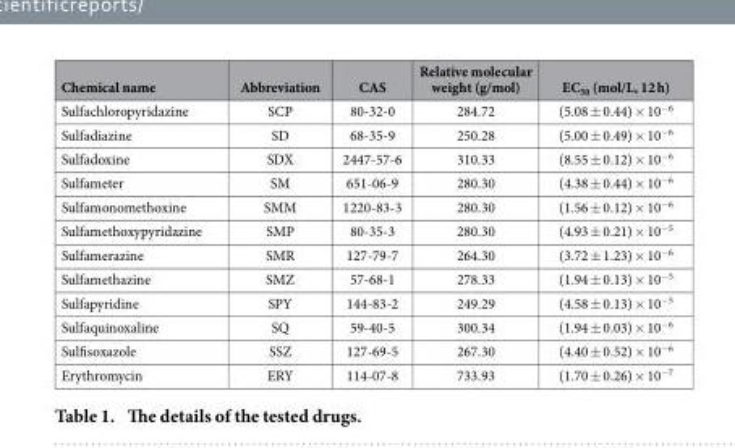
<table><thead><tr><td>Chemical name</td><td>Abbreviation</td><td>CAS</td><td>Relative molecular weight (g/mol)</td><td>EC<sub>50</sub> (mol/L, 12 h)</td></tr></thead><tbody><tr><td>Sulfachloropyridazine</td><td>SCP</td><td>80-32-0</td><td>284.72</td><td>(5.08 ± 0.44) × 10<sup>−6</sup></td></tr><tr><td>Sulfadiazine</td><td>SD</td><td>68-35-9</td><td>250.28</td><td>(5.00 ± 0.49) × 10<sup>−6</sup></td></tr><tr><td>Sulfadoxine</td><td>SDX</td><td>2447-57-6</td><td>310.33</td><td>(8.55 ± 0.12) × 10<sup>−6</sup></td></tr><tr><td>Sulfameter</td><td>SM</td><td>651-06-9</td><td>280.30</td><td>(4.38 ± 0.44) × 10<sup>−6</sup></td></tr><tr><td>Sulfamonomethoxine</td><td>SMM</td><td>1220-83-3</td><td>280.30</td><td>(1.56 ± 0.12) × 10<sup>−6</sup></td></tr><tr><td>Sulfamethoxypyridazine</td><td>SMP</td><td>80-35-3</td><td>280.30</td><td>(4.93 ± 0.21) × 10<sup>−5</sup></td></tr><tr><td>Sulfamerazine</td><td>SMR</td><td>127-79-7</td><td>264.30</td><td>(3.72 ± 1.23) × 10<sup>−6</sup></td></tr><tr><td>Sulfamethazine</td><td>SMZ</td><td>57-68-1</td><td>278.33</td><td>(1.94 ± 0.13) × 10<sup>−5</sup></td></tr><tr><td>Sulfapyridine</td><td>SPY</td><td>144-83-2</td><td>249.29</td><td>(4.58 ± 0.13) × 10<sup>−5</sup></td></tr><tr><td>Sulfaquinoxaline</td><td>SQ</td><td>59-40-5</td><td>300.34</td><td>(1.94 ± 0.03) × 10<sup>−6</sup></td></tr><tr><td>Sulfisoxazole</td><td>SSZ</td><td>127-69-5</td><td>267.30</td><td>(4.40 ± 0.52) × 10<sup>−6</sup></td></tr><tr><td>Erythromycin</td><td>ERY</td><td>114-07-8</td><td>733.93</td><td>(1.70 ± 0.26) × 10<sup>−7</sup></td></tr></tbody></table>